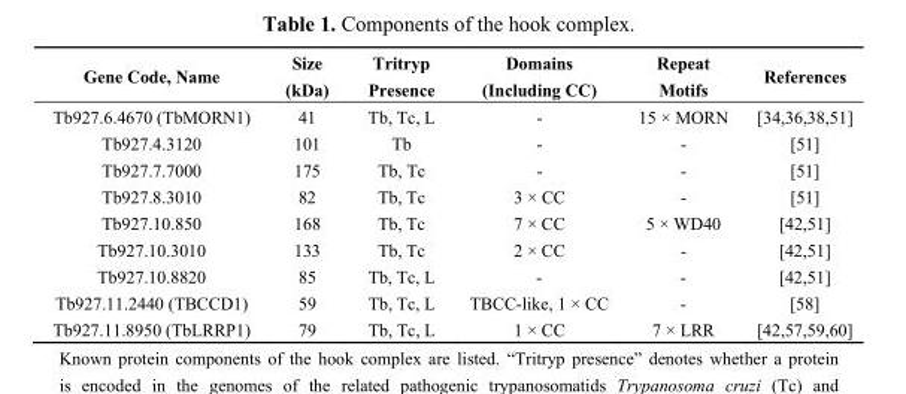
<table><thead><tr><td>Gene Code, Name</td><td>Size (kDa)</td><td>Tritryp Presence</td><td>Domains (Including CC)</td><td>Repeat Motifs</td><td>References</td></tr></thead><tbody><tr><td>Tb927.6.4670 (TbMORN1)</td><td>41</td><td>Tb, Tc, L</td><td>-</td><td>15 × MORN</td><td>[34,36,38,51]</td></tr><tr><td>Tb927.4.3120</td><td>101</td><td>Tb</td><td>-</td><td>-</td><td>[51]</td></tr><tr><td>Tb927.7.7000</td><td>175</td><td>Tb, Tc</td><td>-</td><td>-</td><td>[51]</td></tr><tr><td>Tb927.8.3010</td><td>82</td><td>Tb, Tc</td><td>3 × CC</td><td>-</td><td>[51]</td></tr><tr><td>Tb927.10.850</td><td>168</td><td>Tb, Tc</td><td>7 × CC</td><td>5 × WD40</td><td>[42,51]</td></tr><tr><td>Tb927.10.3010</td><td>133</td><td>Tb, Tc</td><td>2 × CC</td><td>-</td><td>[42,51]</td></tr><tr><td>Tb927.10.8820</td><td>85</td><td>Tb, Tc, L</td><td>-</td><td>-</td><td>[42,51]</td></tr><tr><td>Tb927.11.2440 (TBCCD1)</td><td>59</td><td>Tb, Tc, L</td><td>TBCC-like, 1 × CC</td><td>-</td><td>[58]</td></tr><tr><td>Tb927.11.8950 (TbLRRP1)</td><td>79</td><td>Tb, Tc, L</td><td>1 × CC</td><td>7 × LRR</td><td>[42,57,59,60]</td></tr></tbody></table>